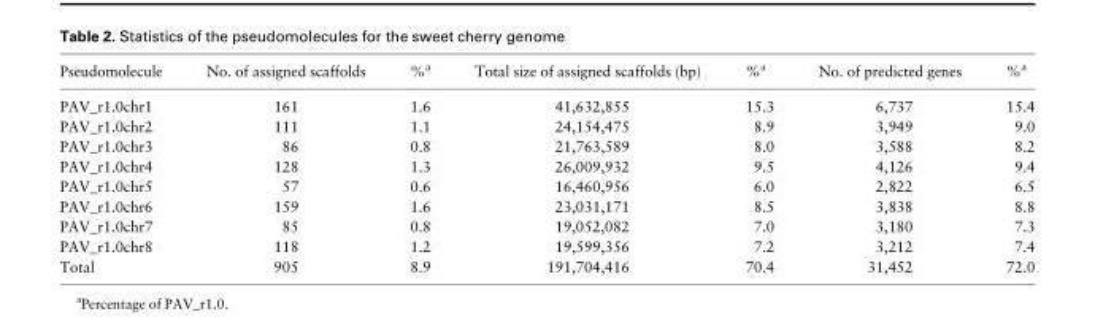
<table><thead><tr><td>Pseudomolecule</td><td>No. of assigned scaffolds</td><td>%<sup>a</sup></td><td>Total size of assigned scaffolds (bp)</td><td>%<sup>a</sup></td><td>No. of predicted genes</td><td>%<sup>a</sup></td></tr></thead><tbody><tr><td>PAV_r1.0chr1</td><td>161</td><td>1.6</td><td>41,632,855</td><td>15.3</td><td>6,737</td><td>15.4</td></tr><tr><td>PAV_r1.0chr2</td><td>111</td><td>1.1</td><td>24,154,475</td><td>8.9</td><td>3,949</td><td>9.0</td></tr><tr><td>PAV_r1.0chr3</td><td>86</td><td>0.8</td><td>21,763,589</td><td>8.0</td><td>3,588</td><td>8.2</td></tr><tr><td>PAV_r1.0chr4</td><td>128</td><td>1.3</td><td>26,009,932</td><td>9.5</td><td>4,126</td><td>9.4</td></tr><tr><td>PAV_r1.0chr5</td><td>57</td><td>0.6</td><td>16,460,956</td><td>6.0</td><td>2,822</td><td>6.5</td></tr><tr><td>PAV_r1.0chr6</td><td>159</td><td>1.6</td><td>23,031,171</td><td>8.5</td><td>3,838</td><td>8.8</td></tr><tr><td>PAV_r1.0chr7</td><td>85</td><td>0.8</td><td>19,052,082</td><td>7.0</td><td>3,180</td><td>7.3</td></tr><tr><td>PAV_r1.0chr8</td><td>118</td><td>1.2</td><td>19,599,356</td><td>7.2</td><td>3,212</td><td>7.4</td></tr><tr><td>Total</td><td>905</td><td>8.9</td><td>191,704,416</td><td>70.4</td><td>31,452</td><td>72.0</td></tr></tbody></table>